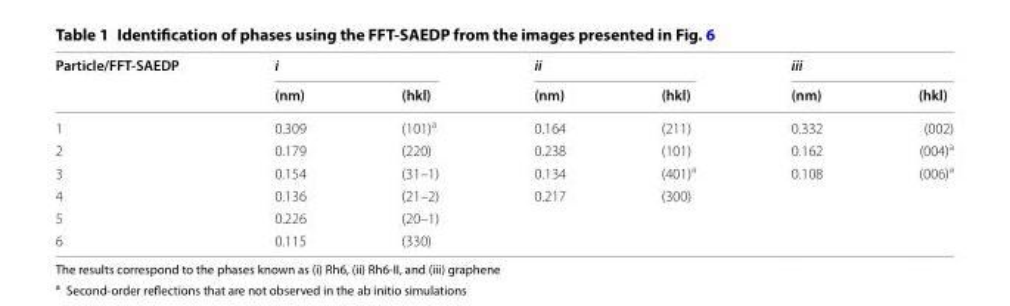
<table><thead><tr><td rowspan="2">Particle/FFT-SAEDP</td><td colspan="2">i</td><td colspan="2">ii</td><td colspan="2">iii</td></tr><tr><td>(nm)</td><td>(hkl)</td><td>(nm)</td><td>(hkl)</td><td>(nm)</td><td>(hkl)</td></tr></thead><tbody><tr><td>1</td><td>0.309</td><td>(101)<sup>a</sup></td><td>0.164</td><td>(211)</td><td>0.332</td><td>(002)</td></tr><tr><td>2</td><td>0.179</td><td>(220)</td><td>0.238</td><td>(101)</td><td>0.162</td><td>(004)<sup>a</sup></td></tr><tr><td>3</td><td>0.154</td><td>(31–1)</td><td>0.134</td><td>(401)<sup>a</sup></td><td>0.108</td><td>(006)<sup>a</sup></td></tr><tr><td>4</td><td>0.136</td><td>(21–2)</td><td>0.217</td><td>(300)</td><td></td><td></td></tr><tr><td>5</td><td>0.226</td><td>(20–1)</td><td></td><td></td><td></td><td></td></tr><tr><td>6</td><td>0.115</td><td>(330)</td><td></td><td></td><td></td><td></td></tr></tbody></table>